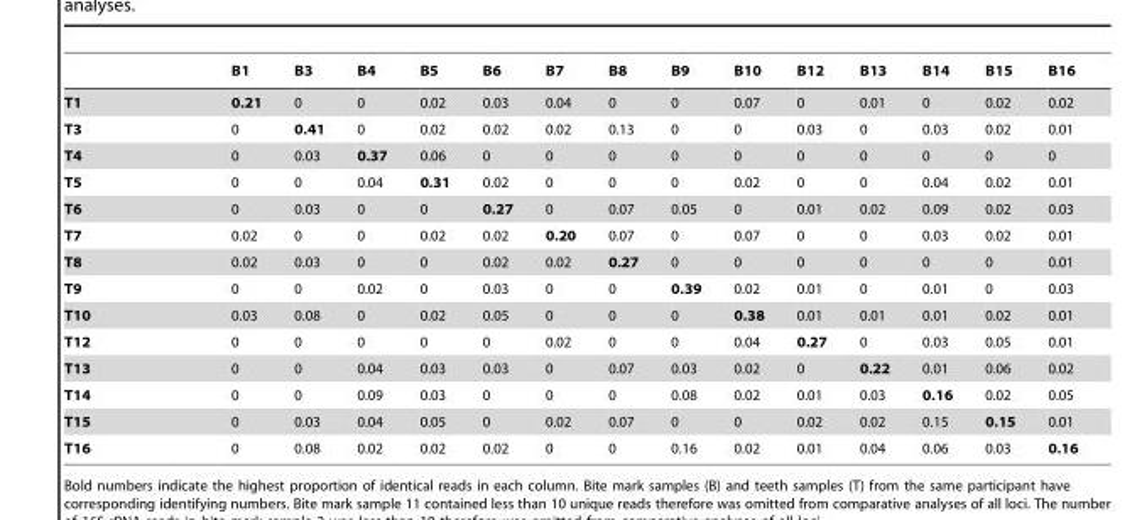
<table><thead><tr><td></td><td>B1</td><td>B3</td><td>B4</td><td>B5</td><td>B6</td><td>B7</td><td>B8</td><td>B9</td><td>B10</td><td>B12</td><td>B13</td><td>B14</td><td>B15</td><td>B16</td></tr></thead><tbody><tr><td>T1</td><td>0.21</td><td>0</td><td>0</td><td>0.02</td><td>0.03</td><td>0.04</td><td>0</td><td>0</td><td>0.07</td><td>0</td><td>0.01</td><td>0</td><td>0.02</td><td>0.02</td></tr><tr><td>T3</td><td>0</td><td>0.41</td><td>0</td><td>0.02</td><td>0.02</td><td>0.02</td><td>0.13</td><td>0</td><td>0</td><td>0.03</td><td>0</td><td>0.03</td><td>0.02</td><td>0.01</td></tr><tr><td>T4</td><td>0</td><td>0.03</td><td>0.37</td><td>0.06</td><td>0</td><td>0</td><td>0</td><td>0</td><td>0</td><td>0</td><td>0</td><td>0</td><td>0</td><td>0</td></tr><tr><td>T5</td><td>0</td><td>0</td><td>0.04</td><td>0.31</td><td>0.02</td><td>0</td><td>0</td><td>0</td><td>0.02</td><td>0</td><td>0</td><td>0.04</td><td>0.02</td><td>0.01</td></tr><tr><td>T6</td><td>0</td><td>0.03</td><td>0</td><td>0</td><td>0.27</td><td>0</td><td>0.07</td><td>0.05</td><td>0</td><td>0.01</td><td>0.02</td><td>0.09</td><td>0.02</td><td>0.03</td></tr><tr><td>T7</td><td>0.02</td><td>0</td><td>0</td><td>0.02</td><td>0.02</td><td>0.20</td><td>0.07</td><td>0</td><td>0.07</td><td>0</td><td>0</td><td>0.03</td><td>0.02</td><td>0.01</td></tr><tr><td>T8</td><td>0.02</td><td>0.03</td><td>0</td><td>0</td><td>0.02</td><td>0.02</td><td>0.27</td><td>0</td><td>0</td><td>0</td><td>0</td><td>0</td><td>0</td><td>0.01</td></tr><tr><td>T9</td><td>0</td><td>0</td><td>0.02</td><td>0</td><td>0.03</td><td>0</td><td>0</td><td>0.39</td><td>0.02</td><td>0.01</td><td>0</td><td>0.01</td><td>0</td><td>0.03</td></tr><tr><td>T10</td><td>0.03</td><td>0.08</td><td>0</td><td>0.02</td><td>0.05</td><td>0</td><td>0</td><td>0</td><td>0.38</td><td>0.01</td><td>0.01</td><td>0.01</td><td>0.02</td><td>0.01</td></tr><tr><td>T12</td><td>0</td><td>0</td><td>0</td><td>0</td><td>0</td><td>0.02</td><td>0</td><td>0</td><td>0.04</td><td>0.27</td><td>0</td><td>0.03</td><td>0.05</td><td>0.01</td></tr><tr><td>T13</td><td>0</td><td>0</td><td>0.04</td><td>0.03</td><td>0.03</td><td>0</td><td>0.07</td><td>0.03</td><td>0.02</td><td>0</td><td>0.22</td><td>0.01</td><td>0.06</td><td>0.02</td></tr><tr><td>T14</td><td>0</td><td>0</td><td>0.09</td><td>0.03</td><td>0</td><td>0</td><td>0</td><td>0.08</td><td>0.02</td><td>0.01</td><td>0.03</td><td>0.16</td><td>0.02</td><td>0.05</td></tr><tr><td>T15</td><td>0</td><td>0.03</td><td>0.04</td><td>0.05</td><td>0</td><td>0.02</td><td>0.07</td><td>0</td><td>0</td><td>0.02</td><td>0.02</td><td>0.15</td><td>0.15</td><td>0.01</td></tr><tr><td>T16</td><td>0</td><td>0.08</td><td>0.02</td><td>0.02</td><td>0.02</td><td>0</td><td>0</td><td>0.16</td><td>0.02</td><td>0.01</td><td>0.04</td><td>0.06</td><td>0.03</td><td>0.16</td></tr></tbody></table>